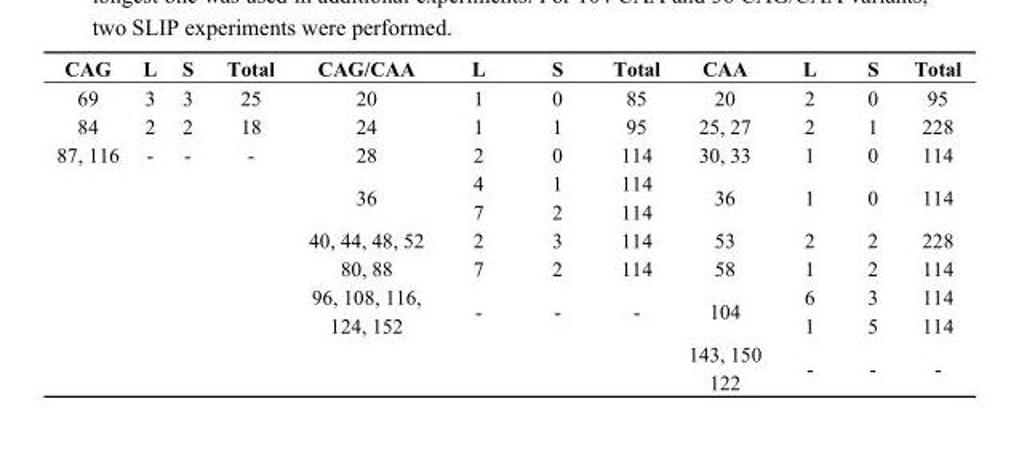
<table><thead><tr><td>CAG</td><td>L</td><td>S</td><td>Total</td><td>CAG/CAA</td><td>L</td><td>S</td><td>Total</td><td>CAA</td><td>L</td><td>S</td><td>Total</td></tr></thead><tbody><tr><td>69</td><td>3</td><td>3</td><td>25</td><td>20</td><td>1</td><td>0</td><td>85</td><td>20</td><td>2</td><td>0</td><td>95</td></tr><tr><td>84</td><td>2</td><td>2</td><td>18</td><td>24</td><td>1</td><td>1</td><td>95</td><td>25, 27</td><td>2</td><td>1</td><td>228</td></tr><tr><td rowspan="9">87, 116</td><td>-</td><td>-</td><td>-</td><td>28</td><td>2</td><td>0</td><td>114</td><td>30, 33</td><td>1</td><td>0</td><td>114</td></tr><tr><td rowspan="2"></td><td rowspan="2"></td><td rowspan="2"></td><td rowspan="2">36</td><td>4</td><td>1</td><td>114</td><td rowspan="2">36</td><td rowspan="2">1</td><td rowspan="2">0</td><td rowspan="2">114</td></tr><tr><td>7</td><td>2</td><td>114</td></tr><tr><td></td><td></td><td></td><td>40, 44, 48, 52</td><td>2</td><td>3</td><td>114</td><td>53</td><td>2</td><td>2</td><td>228</td></tr><tr><td></td><td></td><td></td><td>80, 88</td><td>7</td><td>2</td><td>114</td><td>58</td><td>1</td><td>2</td><td>114</td></tr><tr><td rowspan="2"></td><td rowspan="2"></td><td rowspan="2"></td><td rowspan="2">96, 108, 116, 124, 152</td><td rowspan="2">-</td><td rowspan="2">-</td><td rowspan="2">-</td><td rowspan="2">104</td><td>6</td><td>3</td><td>114</td></tr><tr><td>1</td><td>5</td><td>114</td></tr><tr><td rowspan="2"></td><td rowspan="2"></td><td rowspan="2"></td><td rowspan="2"></td><td rowspan="2"></td><td rowspan="2"></td><td rowspan="2"></td><td>143, 150</td><td rowspan="2">-</td><td rowspan="2">-</td><td rowspan="2">-</td></tr><tr><td>122</td></tr></tbody></table>